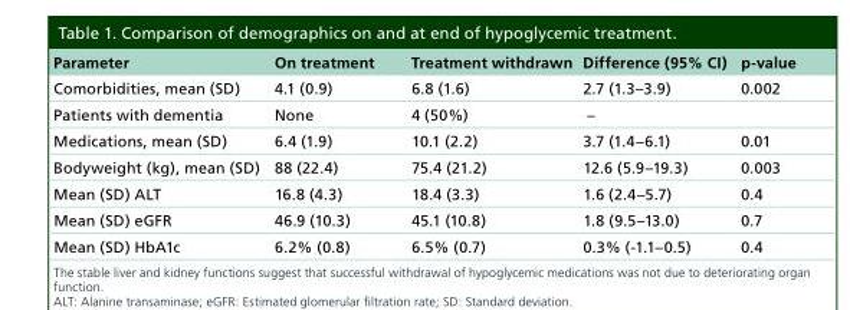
<table><thead><tr><td>Parameter</td><td>On treatment</td><td>Treatment withdrawn</td><td>Difference (95% CI)</td><td>p-value</td></tr></thead><tbody><tr><td>Comorbidities, mean (SD)</td><td>4.1 (0.9)</td><td>6.8 (1.6)</td><td>2.7 (1.3–3.9)</td><td>0.002</td></tr><tr><td>Patients with dementia</td><td>None</td><td>4 (50%)</td><td>–</td><td></td></tr><tr><td>Medications, mean (SD)</td><td>6.4 (1.9)</td><td>10.1 (2.2)</td><td>3.7 (1.4–6.1)</td><td>0.01</td></tr><tr><td>Bodyweight (kg), mean (SD)</td><td>88 (22.4)</td><td>75.4 (21.2)</td><td>12.6 (5.9–19.3)</td><td>0.003</td></tr><tr><td>Mean (SD) ALT</td><td>16.8 (4.3)</td><td>18.4 (3.3)</td><td>1.6 (2.4–5.7)</td><td>0.4</td></tr><tr><td>Mean (SD) eGFR</td><td>46.9 (10.3)</td><td>45.1 (10.8)</td><td>1.8 (9.5–13.0)</td><td>0.7</td></tr><tr><td>Mean (SD) HbA1c</td><td>6.2% (0.8)</td><td>6.5% (0.7)</td><td>0.3% (-1.1–0.5)</td><td>0.4</td></tr></tbody></table>